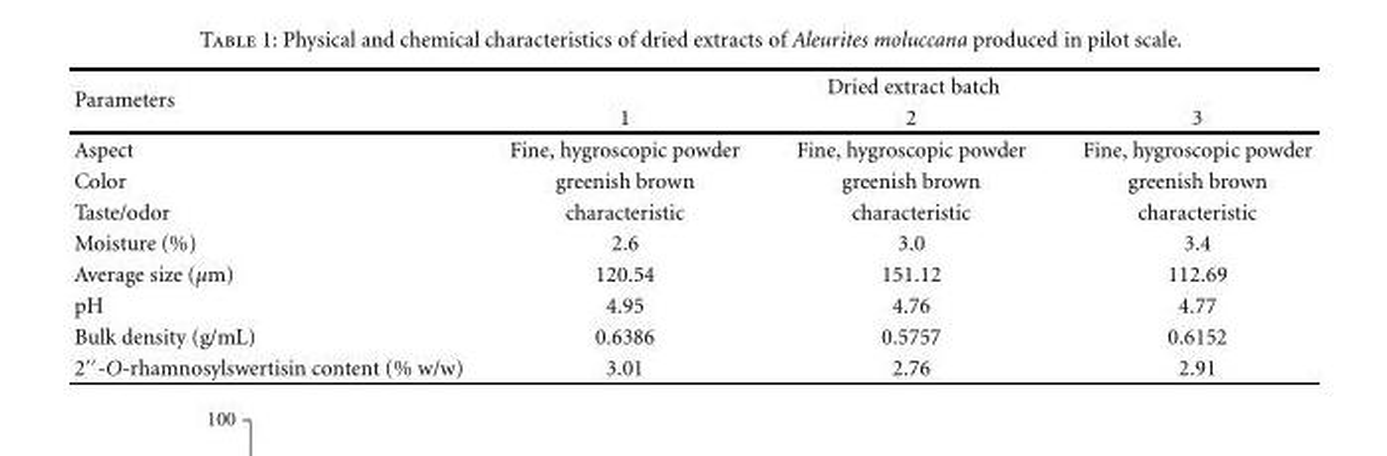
<table><thead><tr><td rowspan="2">Parameters</td><td colspan="3">Dried extract batch</td></tr><tr><td>1</td><td>2</td><td>3</td></tr></thead><tbody><tr><td>Aspect</td><td>Fine, hygroscopic powder</td><td>Fine, hygroscopic powder</td><td>Fine, hygroscopic powder</td></tr><tr><td>Color</td><td>greenish brown</td><td>greenish brown</td><td>greenish brown</td></tr><tr><td>Taste/odor</td><td>characteristic</td><td>characteristic</td><td>characteristic</td></tr><tr><td>Moisture (%)</td><td>2.6</td><td>3.0</td><td>3.4</td></tr><tr><td>Average size (μm)</td><td>120.54</td><td>151.12</td><td>112.69</td></tr><tr><td>pH</td><td>4.95</td><td>4.76</td><td>4.77</td></tr><tr><td>Bulk density (g/mL)</td><td>0.6386</td><td>0.5757</td><td>0.6152</td></tr><tr><td>2′′-O-rhamnosylswertisin content (% w/w)</td><td>3.01</td><td>2.76</td><td>2.91</td></tr></tbody></table>